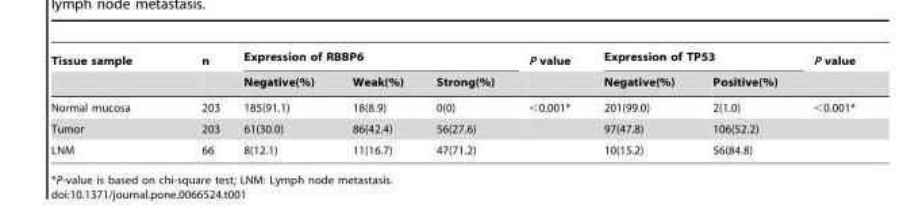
<table><thead><tr><td rowspan="2">Tissue sample</td><td rowspan="2">n</td><td colspan="3">Expression of RBBP6</td><td rowspan="2">P value</td><td colspan="2">Expression of TP53</td><td rowspan="2">P value</td></tr><tr><td>Negative(%)</td><td>Weak(%)</td><td>Strong(%)</td><td>Negative(%)</td><td>Positive(%)</td></tr></thead><tbody><tr><td>Normal mucosa</td><td>203</td><td>185(91.1)</td><td>18(8.9)</td><td>0(0)</td><td>&lt;0.001*</td><td>201(99.0)</td><td>2(1.0)</td><td>&lt;0.001*</td></tr><tr><td>Tumor</td><td>203</td><td>61(30.0)</td><td>86(42.4)</td><td>56(27.6)</td><td></td><td>97(47.8)</td><td>106(52.2)</td><td></td></tr><tr><td>LNM</td><td>66</td><td>8(12.1)</td><td>11(16.7)</td><td>47(71.2)</td><td></td><td>10(15.2)</td><td>56(84.8)</td><td></td></tr></tbody></table>